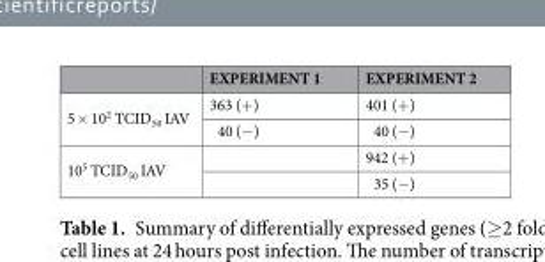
<table><thead><tr><td></td><td>EXPERIMENT 1</td><td>EXPERIMENT 2</td></tr></thead><tbody><tr><td rowspan="2">5 × 10<sup>2</sup> TCID<sub>50</sub> IAV</td><td>363 (+)</td><td>401 (+)</td></tr><tr><td>40 (−)</td><td>40 (−)</td></tr><tr><td rowspan="2">10<sup>5</sup> TCID<sub>50</sub> IAV</td><td></td><td>942 (+)</td></tr><tr><td></td><td>35 (−)</td></tr></tbody></table>